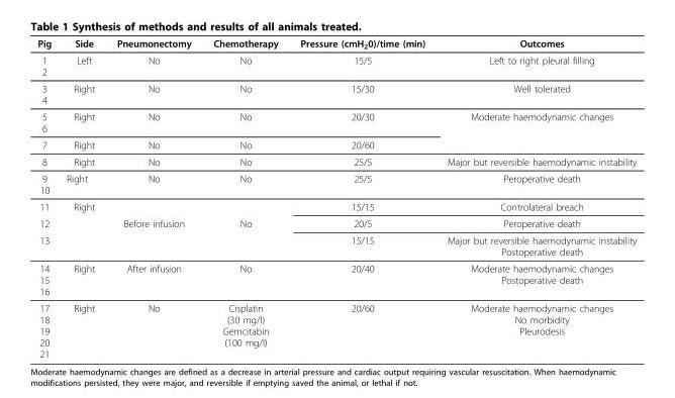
<table><thead><tr><td>Pig</td><td>Side</td><td>Pneumonectomy</td><td>Chemotherapy</td><td>Pressure (cmH<sub>2</sub>0)/time (min)</td><td>Outcomes</td></tr></thead><tbody><tr><td>1 2</td><td>Left</td><td>No</td><td>No</td><td>15/5</td><td>Left to right pleural filling</td></tr><tr><td>3 4</td><td>Right</td><td>No</td><td>No</td><td>15/30</td><td>Well tolerated</td></tr><tr><td>5 6</td><td>Right</td><td>No</td><td>No</td><td>20/30</td><td>Moderate haemodynamic changes</td></tr><tr><td>7</td><td>Right</td><td>No</td><td>No</td><td>20/60</td><td></td></tr><tr><td>8</td><td>Right</td><td>No</td><td>No</td><td>25/5</td><td>Major but reversible haemodynamic instability</td></tr><tr><td>9 10</td><td>Right</td><td>No</td><td>No</td><td>25/5</td><td>Peroperative death</td></tr><tr><td>11</td><td>Right</td><td></td><td></td><td>15/15</td><td>Controlateral breach</td></tr><tr><td>12</td><td></td><td>Before infusion</td><td>No</td><td>20/5</td><td>Peroperative death</td></tr><tr><td>13</td><td></td><td></td><td></td><td>15/15</td><td>Major but reversible haemodynamic instability Postoperative death</td></tr><tr><td>14 15 16</td><td>Right</td><td>After infusion</td><td>No</td><td>20/40</td><td>Moderate haemodynamic changes Postoperative death</td></tr><tr><td>17 18 19 20 21</td><td>Right</td><td>No</td><td>Cisplatin (30 mg/l) Gemcitabin (100 mg/l)</td><td>20/60</td><td>Moderate haemodynamic changes No morbidity Pleurodesis</td></tr></tbody></table>